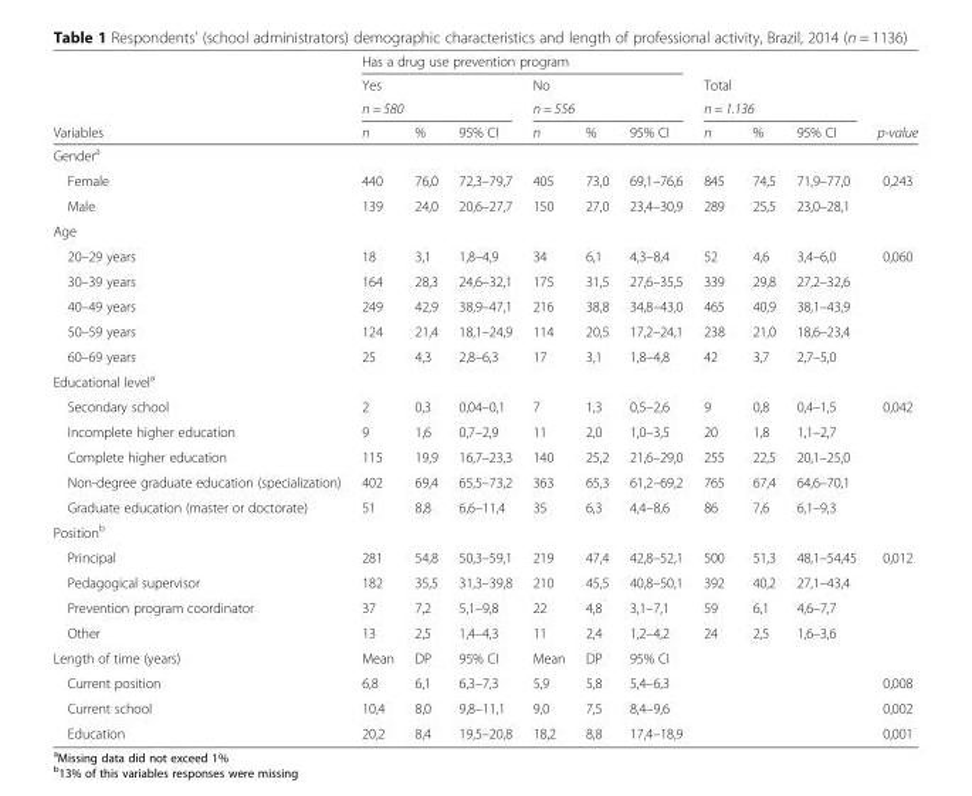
<table><thead><tr><td rowspan="4">Variables</td><td colspan="6">Has a drug use prevention program</td><td rowspan="2">Total</td><td rowspan="2"></td><td rowspan="2"></td><td rowspan="4">p-value</td></tr><tr><td>Yes</td><td></td><td></td><td>No</td><td></td><td></td></tr><tr><td colspan="3">n = 580</td><td colspan="3">n = 556</td><td colspan="3">n = 1.136</td></tr><tr><td>n</td><td>%</td><td>95% CI</td><td>n</td><td>%</td><td>95% CI</td><td>n</td><td>%</td><td>95% CI</td></tr></thead><tbody><tr><td colspan="11">Gender<sup>a</sup></td></tr><tr><td>Female</td><td>440</td><td>76,0</td><td>72,3–79,7</td><td>405</td><td>73,0</td><td>69,1–76,6</td><td>845</td><td>74,5</td><td>71,9–77,0</td><td>0,243</td></tr><tr><td>Male</td><td>139</td><td>24,0</td><td>20,6–27,7</td><td>150</td><td>27,0</td><td>23,4–30,9</td><td>289</td><td>25,5</td><td>23,0–28,1</td><td></td></tr><tr><td colspan="11">Age</td></tr><tr><td>20–29 years</td><td>18</td><td>3,1</td><td>1,8–4,9</td><td>34</td><td>6,1</td><td>4,3–8,4</td><td>52</td><td>4,6</td><td>3,4–6,0</td><td>0,060</td></tr><tr><td>30–39 years</td><td>164</td><td>28,3</td><td>24,6–32,1</td><td>175</td><td>31,5</td><td>27,6–35,5</td><td>339</td><td>29,8</td><td>27,2–32,6</td><td></td></tr><tr><td>40–49 years</td><td>249</td><td>42,9</td><td>38,9–47,1</td><td>216</td><td>38,8</td><td>34,8–43,0</td><td>465</td><td>40,9</td><td>38,1–43,9</td><td></td></tr><tr><td>50–59 years</td><td>124</td><td>21,4</td><td>18,1–24,9</td><td>114</td><td>20,5</td><td>17,2–24,1</td><td>238</td><td>21,0</td><td>18,6–23,4</td><td></td></tr><tr><td>60–69 years</td><td>25</td><td>4,3</td><td>2,8–6,3</td><td>17</td><td>3,1</td><td>1,8–4,8</td><td>42</td><td>3,7</td><td>2,7–5,0</td><td></td></tr><tr><td colspan="11">Educational level<sup>a</sup></td></tr><tr><td>Secondary school</td><td>2</td><td>0,3</td><td>0,04–0,1</td><td>7</td><td>1,3</td><td>0,5–2,6</td><td>9</td><td>0,8</td><td>0,4–1,5</td><td>0,042</td></tr><tr><td>Incomplete higher education</td><td>9</td><td>1,6</td><td>0,7–2,9</td><td>11</td><td>2,0</td><td>1,0–3,5</td><td>20</td><td>1,8</td><td>1,1–2,7</td><td></td></tr><tr><td>Complete higher education</td><td>115</td><td>19,9</td><td>16,7–23,3</td><td>140</td><td>25,2</td><td>21,6–29,0</td><td>255</td><td>22,5</td><td>20,1–25,0</td><td></td></tr><tr><td>Non-degree graduate education (specialization)</td><td>402</td><td>69,4</td><td>65,5–73,2</td><td>363</td><td>65,3</td><td>61,2–69,2</td><td>765</td><td>67,4</td><td>64,6–70,1</td><td></td></tr><tr><td>Graduate education (master or doctorate)</td><td>51</td><td>8,8</td><td>6,6–11,4</td><td>35</td><td>6,3</td><td>4,4–8,6</td><td>86</td><td>7,6</td><td>6,1–9,3</td><td></td></tr><tr><td colspan="11">Position<sup>b</sup></td></tr><tr><td>Principal</td><td>281</td><td>54,8</td><td>50,3–59,1</td><td>219</td><td>47,4</td><td>42,8–52,1</td><td>500</td><td>51,3</td><td>48,1–54,45</td><td>0,012</td></tr><tr><td>Pedagogical supervisor</td><td>182</td><td>35,5</td><td>31,3–39,8</td><td>210</td><td>45,5</td><td>40,8–50,1</td><td>392</td><td>40,2</td><td>27,1–43,4</td><td></td></tr><tr><td>Prevention program coordinator</td><td>37</td><td>7,2</td><td>5,1–9,8</td><td>22</td><td>4,8</td><td>3,1–7,1</td><td>59</td><td>6,1</td><td>4,6–7,7</td><td></td></tr><tr><td>Other</td><td>13</td><td>2,5</td><td>1,4–4,3</td><td>11</td><td>2,4</td><td>1,2–4,2</td><td>24</td><td>2,5</td><td>1,6–3,6</td><td></td></tr><tr><td>Length of time (years)</td><td>Mean</td><td>DP</td><td>95% CI</td><td>Mean</td><td>DP</td><td>95% CI</td><td></td><td></td><td></td><td></td></tr><tr><td>Current position</td><td>6,8</td><td>6,1</td><td>6,3–7,3</td><td>5,9</td><td>5,8</td><td>5,4–6,3</td><td></td><td></td><td></td><td>0,008</td></tr><tr><td>Current school</td><td>10,4</td><td>8,0</td><td>9,8–11,1</td><td>9,0</td><td>7,5</td><td>8,4–9,6</td><td></td><td></td><td></td><td>0,002</td></tr><tr><td>Education</td><td>20,2</td><td>8,4</td><td>19,5–20,8</td><td>18,2</td><td>8,8</td><td>17,4–18,9</td><td></td><td></td><td></td><td>0,001</td></tr></tbody></table>